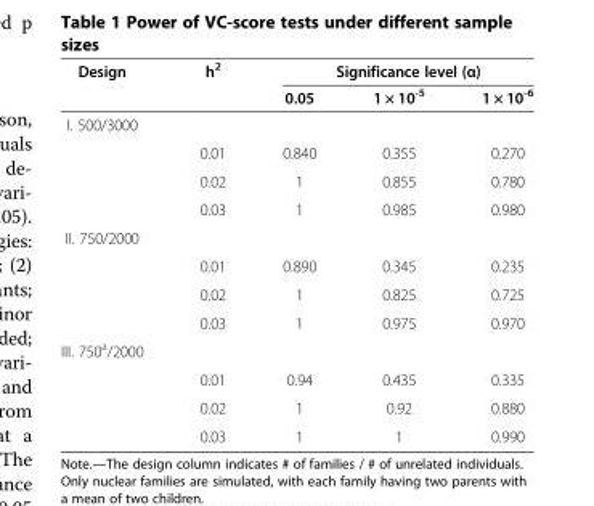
<table><thead><tr><td rowspan="2">Design</td><td rowspan="2">h<sup>2</sup></td><td colspan="3">Significance level (α)</td></tr><tr><td>0.05</td><td>1 × 10<sup>-5</sup></td><td>1 × 10<sup>-6</sup></td></tr></thead><tbody><tr><td colspan="5">I. 500/3000</td></tr><tr><td></td><td>0.01</td><td>0.840</td><td>0.355</td><td>0.270</td></tr><tr><td></td><td>0.02</td><td>1</td><td>0.855</td><td>0.780</td></tr><tr><td></td><td>0.03</td><td>1</td><td>0.985</td><td>0.980</td></tr><tr><td colspan="5">II. 750/2000</td></tr><tr><td></td><td>0.01</td><td>0.890</td><td>0.345</td><td>0.235</td></tr><tr><td></td><td>0.02</td><td>1</td><td>0.825</td><td>0.725</td></tr><tr><td></td><td>0.03</td><td>1</td><td>0.975</td><td>0.970</td></tr><tr><td colspan="5">III. 750<sup>a</sup>/2000</td></tr><tr><td></td><td>0.01</td><td>0.94</td><td>0.435</td><td>0.335</td></tr><tr><td></td><td>0.02</td><td>1</td><td>0.92</td><td>0.880</td></tr><tr><td></td><td>0.03</td><td>1</td><td>1</td><td>0.990</td></tr></tbody></table>